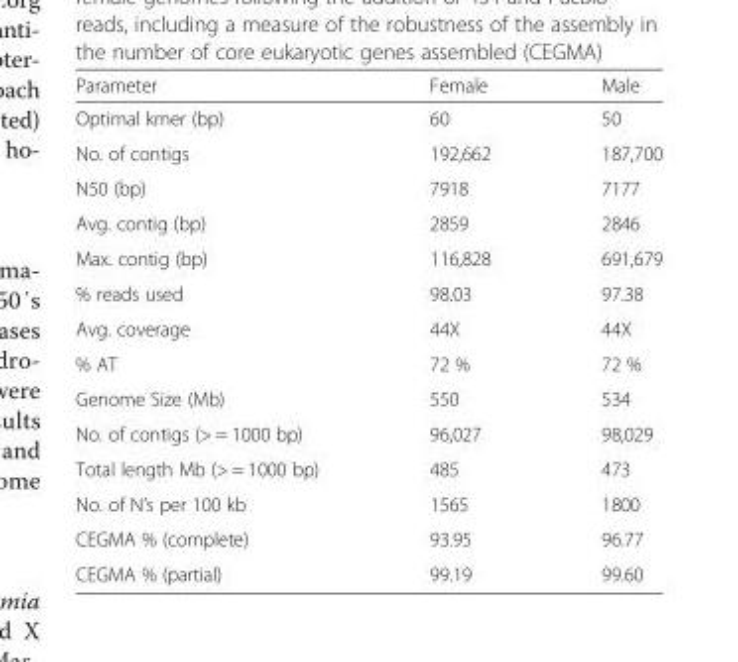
<table><thead><tr><td>Parameter</td><td>Female</td><td>Male</td></tr></thead><tbody><tr><td>Optimal kmer (bp)</td><td>60</td><td>50</td></tr><tr><td>No. of contigs</td><td>192,662</td><td>187,700</td></tr><tr><td>N50 (bp)</td><td>7918</td><td>7177</td></tr><tr><td>Avg. contig (bp)</td><td>2859</td><td>2846</td></tr><tr><td>Max. contig (bp)</td><td>116,828</td><td>691,679</td></tr><tr><td>% reads used</td><td>98.03</td><td>97.38</td></tr><tr><td>Avg. coverage</td><td>44X</td><td>44X</td></tr><tr><td>% AT</td><td>72 %</td><td>72 %</td></tr><tr><td>Genome Size (Mb)</td><td>550</td><td>534</td></tr><tr><td>No. of contigs (&gt; = 1000 bp)</td><td>96,027</td><td>98,029</td></tr><tr><td>Total length Mb (&gt; = 1000 bp)</td><td>485</td><td>473</td></tr><tr><td>No. of N’s per 100 kb</td><td>1565</td><td>1800</td></tr><tr><td>CEGMA % (complete)</td><td>93.95</td><td>96.77</td></tr><tr><td>CEGMA % (partial)</td><td>99.19</td><td>99.60</td></tr></tbody></table>